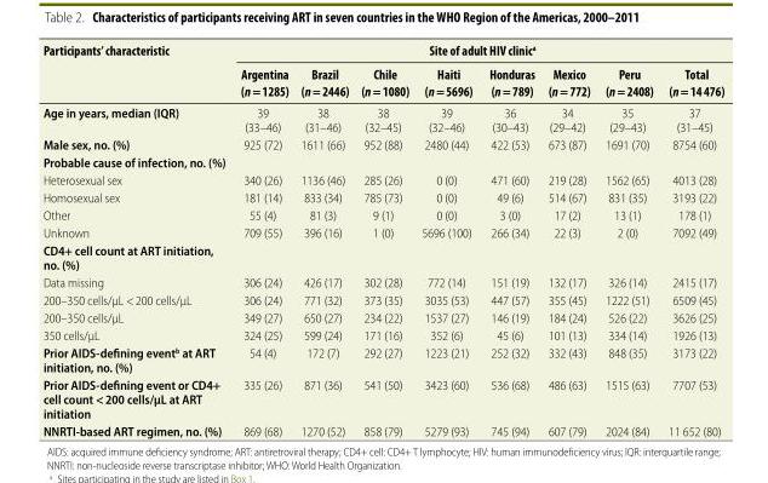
<table><thead><tr><td rowspan="2">Participants’ characteristic</td><td colspan="8">Site of adult HIV clinic<sup>a</sup></td></tr><tr><td>Argentina (n = 1285)</td><td>Brazil (n = 2446)</td><td>Chile (n = 1080)</td><td>Haiti (n = 5696)</td><td>Honduras (n = 789)</td><td>Mexico (n = 772)</td><td>Peru (n = 2408)</td><td>Total (n = 14 476)</td></tr></thead><tbody><tr><td>Age in years, median (IQR)</td><td>39 (33–46)</td><td>38 (31–46)</td><td>38 (32–45)</td><td>39 (32–46)</td><td>36 (30–43)</td><td>34 (29–42)</td><td>35 (29–43)</td><td>37 (31–45)</td></tr><tr><td>Male sex, no. (%)</td><td>925 (72)</td><td>1611 (66)</td><td>952 (88)</td><td>2480 (44)</td><td>422 (53)</td><td>673 (87)</td><td>1691 (70)</td><td>8754 (60)</td></tr><tr><td colspan="9">Probable cause of infection, no. (%)</td></tr><tr><td>Heterosexual sex</td><td>340 (26)</td><td>1136 (46)</td><td>285 (26)</td><td>0 (0)</td><td>471 (60)</td><td>219 (28)</td><td>1562 (65)</td><td>4013 (28)</td></tr><tr><td>Homosexual sex</td><td>181 (14)</td><td>833 (34)</td><td>785 (73)</td><td>0 (0)</td><td>49 (6)</td><td>514 (67)</td><td>831 (35)</td><td>3193 (22)</td></tr><tr><td>Other</td><td>55 (4)</td><td>81 (3)</td><td>9 (1)</td><td>0 (0)</td><td>3 (0)</td><td>17 (2)</td><td>13 (1)</td><td>178 (1)</td></tr><tr><td>Unknown</td><td>709 (55)</td><td>396 (16)</td><td>1 (0)</td><td>5696 (100)</td><td>266 (34)</td><td>22 (3)</td><td>2 (0)</td><td>7092 (49)</td></tr><tr><td colspan="9">CD4+ cell count at ART initiation, no. (%)</td></tr><tr><td>Data missing</td><td>306 (24)</td><td>426 (17)</td><td>302 (28)</td><td>772 (14)</td><td>151 (19)</td><td>132 (17)</td><td>326 (14)</td><td>2415 (17)</td></tr><tr><td>200–350 cells/µL &lt; 200 cells/µL</td><td>306 (24)</td><td>771 (32)</td><td>373 (35)</td><td>3035 (53)</td><td>447 (57)</td><td>355 (45)</td><td>1222 (51)</td><td>6509 (45)</td></tr><tr><td>200–350 cells/µL</td><td>349 (27)</td><td>650 (27)</td><td>234 (22)</td><td>1537 (27)</td><td>146 (19)</td><td>184 (24)</td><td>526 (22)</td><td>3626 (25)</td></tr><tr><td>350 cells/µL</td><td>324 (25)</td><td>599 (24)</td><td>171 (16)</td><td>352 (6)</td><td>45 (6)</td><td>101 (13)</td><td>334 (14)</td><td>1926 (13)</td></tr><tr><td>Prior AIDS-defining event<sup>b</sup> at ART initiation, no. (%)</td><td>54 (4)</td><td>172 (7)</td><td>292 (27)</td><td>1223 (21)</td><td>252 (32)</td><td>332 (43)</td><td>848 (35)</td><td>3173 (22)</td></tr><tr><td>Prior AIDS-defining event or CD4+ cell count &lt; 200 cells/µL at ART initiation</td><td>335 (26)</td><td>871 (36)</td><td>541 (50)</td><td>3423 (60)</td><td>536 (68)</td><td>486 (63)</td><td>1515 (63)</td><td>7707 (53)</td></tr><tr><td>NNRTI-based ART regimen, no. (%)</td><td>869 (68)</td><td>1270 (52)</td><td>858 (79)</td><td>5279 (93)</td><td>745 (94)</td><td>607 (79)</td><td>2024 (84)</td><td>11 652 (80)</td></tr></tbody></table>